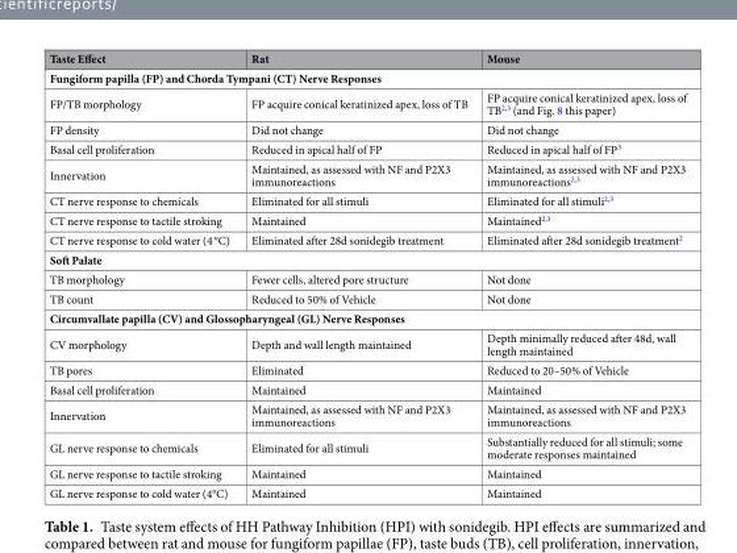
<table><thead><tr><td>Taste Effect</td><td>Rat</td><td>Mouse</td></tr></thead><tbody><tr><td colspan="3">Fungiform papilla (FP) and Chorda Tympani (CT) Nerve Responses</td></tr><tr><td>FP/TB morphology</td><td>FP acquire conical keratinized apex, loss of TB</td><td>FP acquire conical keratinized apex, loss of TB<sup>2,3</sup> (and Fig. 8 this paper)</td></tr><tr><td>FP density</td><td>Did not change</td><td>Did not change</td></tr><tr><td>Basal cell proliferation</td><td>Reduced in apical half of FP</td><td>Reduced in apical half of FP<sup>3</sup></td></tr><tr><td>Innervation</td><td>Maintained, as assessed with NF and P2X3 immunoreactions</td><td>Maintained, as assessed with NF and P2X3 immunoreactions<sup>2,3</sup></td></tr><tr><td>CT nerve response to chemicals</td><td>Eliminated for all stimuli</td><td>Eliminated for all stimuli<sup>2,3</sup></td></tr><tr><td>CT nerve response to tactile stroking</td><td>Maintained</td><td>Maintained<sup>2,3</sup></td></tr><tr><td>CT nerve response to cold water (4 °C)</td><td>Eliminated after 28d sonidegib treatment</td><td>Eliminated after 28d sonidegib treatment<sup>2</sup></td></tr><tr><td colspan="3">Soft Palate</td></tr><tr><td>TB morphology</td><td>Fewer cells, altered pore structure</td><td>Not done</td></tr><tr><td>TB count</td><td>Reduced to 50% of Vehicle</td><td>Not done</td></tr><tr><td colspan="3">Circumvallate papilla (CV) and Glossopharyngeal (GL) Nerve Responses</td></tr><tr><td>CV morphology</td><td>Depth and wall length maintained</td><td>Depth minimally reduced after 48d, wall length maintained</td></tr><tr><td>TB pores</td><td>Eliminated</td><td>Reduced to 20–50% of Vehicle</td></tr><tr><td>Basal cell proliferation</td><td>Maintained</td><td>Maintained</td></tr><tr><td>Innervation</td><td>Maintained, as assessed with NF and P2X3 immunoreactions</td><td>Maintained, as assessed with NF and P2X3 immunoreactions</td></tr><tr><td>GL nerve response to chemicals</td><td>Eliminated for all stimuli</td><td>Substantially reduced for all stimuli; some moderate responses maintained</td></tr><tr><td>GL nerve response to tactile stroking</td><td>Maintained</td><td>Maintained</td></tr><tr><td>GL nerve response to cold water (4°C)</td><td>Maintained</td><td>Maintained</td></tr></tbody></table>